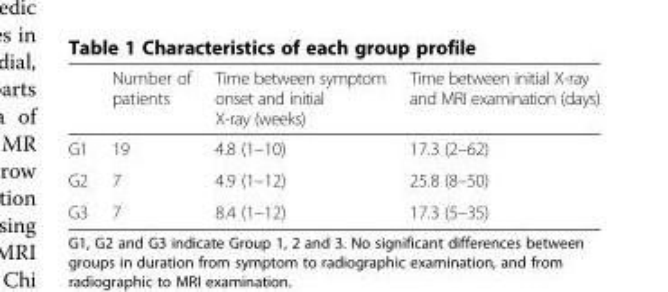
<table><thead><tr><td></td><td>Number of patients</td><td>Time between symptom onset and initial X-ray (weeks)</td><td>Time between initial X-ray and MRI examination (days)</td></tr></thead><tbody><tr><td>G1</td><td>19</td><td>4.8 (1–10)</td><td>17.3 (2–62)</td></tr><tr><td>G2</td><td>7</td><td>4.9 (1–12)</td><td>25.8 (8–50)</td></tr><tr><td>G3</td><td>7</td><td>8.4 (1–12)</td><td>17.3 (5–35)</td></tr></tbody></table>